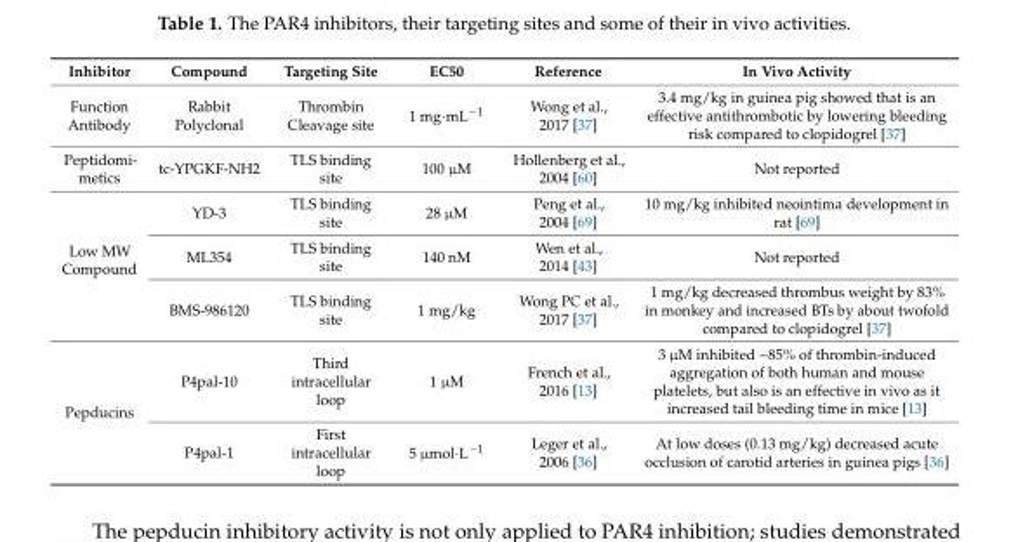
<table><thead><tr><td>Inhibitor</td><td>Compound</td><td>Targeting Site</td><td>EC50</td><td>Reference</td><td>In Vivo Activity</td></tr></thead><tbody><tr><td>Function Antibody</td><td>Rabbit Polyclonal</td><td>Thrombin Cleavage site</td><td>1 mg·mL<sup>−1</sup></td><td>Wong et al., 2017 [37]</td><td>3.4 mg/kg in guinea pig showed that is an effective antithrombotic by lowering bleeding risk compared to clopidogrel [37]</td></tr><tr><td>Peptidomi- metics</td><td>tc-YPGKF-NH2</td><td>TLS binding site</td><td>100 µM</td><td>Hollenberg et al., 2004 [60]</td><td>Not reported</td></tr><tr><td rowspan="3">Low MW Compound</td><td>YD-3</td><td>TLS binding site</td><td>28 µM</td><td>Peng et al., 2004 [69]</td><td>10 mg/kg inhibited neointima development in rat [69]</td></tr><tr><td>ML354</td><td>TLS binding site</td><td>140 nM</td><td>Wen et al., 2014 [43]</td><td>Not reported</td></tr><tr><td>BMS-986120</td><td>TLS binding site</td><td>1 mg/kg</td><td>Wong PC et al., 2017 [37]</td><td>1 mg/kg decreased thrombus weight by 83% in monkey and increased BTs by about twofold compared to clopidogrel [37]</td></tr><tr><td rowspan="2">Pepducins</td><td>P4pal-10</td><td>Third intracellular loop</td><td>1 µM</td><td>French et al., 2016 [13]</td><td>3 µM inhibited ~85% of thrombin-induced aggregation of both human and mouse platelets, but also is an effective in vivo as it increased tail bleeding time in mice [13]</td></tr><tr><td>P4pal-1</td><td>First intracellular loop</td><td>5 µmol·L<sup>−1</sup></td><td>Leger et al., 2006 [36]</td><td>At low doses (0.13 mg/kg) decreased acute occlusion of carotid arteries in guinea pigs [36]</td></tr></tbody></table>